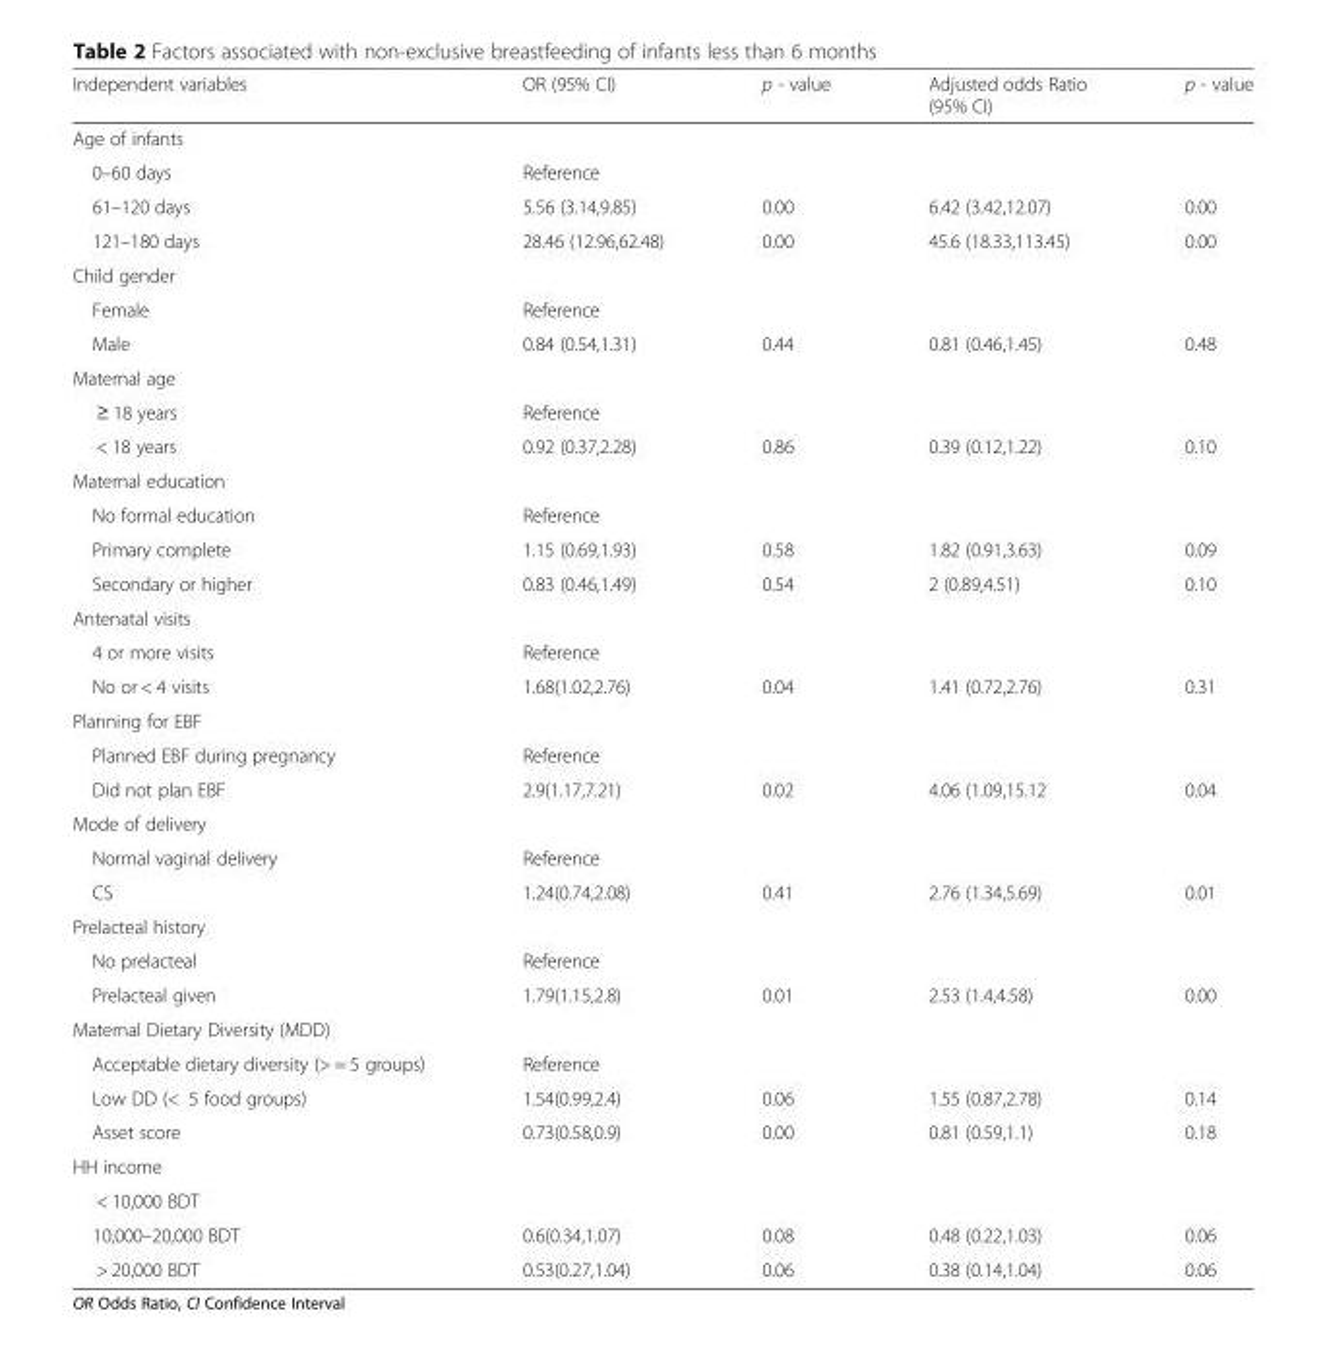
<table><thead><tr><td>Independent variables</td><td>OR (95% CI)</td><td>p - value</td><td>Adjusted odds Ratio (95% CI)</td><td>p - value</td></tr></thead><tbody><tr><td colspan="5">Age of infants</td></tr><tr><td>0–60 days</td><td>Reference</td><td></td><td></td><td></td></tr><tr><td>61–120 days</td><td>5.56 (3.14,9.85)</td><td>0.00</td><td>6.42 (3.42,12.07)</td><td>0.00</td></tr><tr><td>121–180 days</td><td>28.46 (12.96,62.48)</td><td>0.00</td><td>45.6 (18.33,113.45)</td><td>0.00</td></tr><tr><td colspan="5">Child gender</td></tr><tr><td>Female</td><td>Reference</td><td></td><td></td><td></td></tr><tr><td>Male</td><td>0.84 (0.54,1.31)</td><td>0.44</td><td>0.81 (0.46,1.45)</td><td>0.48</td></tr><tr><td colspan="5">Maternal age</td></tr><tr><td>≥ 18 years</td><td>Reference</td><td></td><td></td><td></td></tr><tr><td>&lt; 18 years</td><td>0.92 (0.37,2.28)</td><td>0.86</td><td>0.39 (0.12,1.22)</td><td>0.10</td></tr><tr><td colspan="5">Maternal education</td></tr><tr><td>No formal education</td><td>Reference</td><td></td><td></td><td></td></tr><tr><td>Primary complete</td><td>1.15 (0.69,1.93)</td><td>0.58</td><td>1.82 (0.91,3.63)</td><td>0.09</td></tr><tr><td>Secondary or higher</td><td>0.83 (0.46,1.49)</td><td>0.54</td><td>2 (0.89,4.51)</td><td>0.10</td></tr><tr><td colspan="5">Antenatal visits</td></tr><tr><td>4 or more visits</td><td>Reference</td><td></td><td></td><td></td></tr><tr><td>No or &lt; 4 visits</td><td>1.68(1.02,2.76)</td><td>0.04</td><td>1.41 (0.72,2.76)</td><td>0.31</td></tr><tr><td colspan="5">Planning for EBF</td></tr><tr><td>Planned EBF during pregnancy</td><td>Reference</td><td></td><td></td><td></td></tr><tr><td>Did not plan EBF</td><td>2.9(1.17,7.21)</td><td>0.02</td><td>4.06 (1.09,15.12</td><td>0.04</td></tr><tr><td colspan="5">Mode of delivery</td></tr><tr><td>Normal vaginal delivery</td><td>Reference</td><td></td><td></td><td></td></tr><tr><td>CS</td><td>1.24(0.74,2.08)</td><td>0.41</td><td>2.76 (1.34,5.69)</td><td>0.01</td></tr><tr><td colspan="5">Prelacteal history</td></tr><tr><td>No prelacteal</td><td>Reference</td><td></td><td></td><td></td></tr><tr><td>Prelacteal given</td><td>1.79(1.15,2.8)</td><td>0.01</td><td>2.53 (1.4,4.58)</td><td>0.00</td></tr><tr><td colspan="5">Maternal Dietary Diversity (MDD)</td></tr><tr><td>Acceptable dietary diversity (&gt; = 5 groups)</td><td>Reference</td><td></td><td></td><td></td></tr><tr><td>Low DD (&lt; 5 food groups)</td><td>1.54(0.99,2.4)</td><td>0.06</td><td>1.55 (0.87,2.78)</td><td>0.14</td></tr><tr><td>Asset score</td><td>0.73(0.58,0.9)</td><td>0.00</td><td>0.81 (0.59,1.1)</td><td>0.18</td></tr><tr><td colspan="5">HH income</td></tr><tr><td colspan="5">&lt; 10,000 BDT</td></tr><tr><td>10,000–20,000 BDT</td><td>0.6(0.34,1.07)</td><td>0.08</td><td>0.48 (0.22,1.03)</td><td>0.06</td></tr><tr><td>&gt; 20,000 BDT</td><td>0.53(0.27,1.04)</td><td>0.06</td><td>0.38 (0.14,1.04)</td><td>0.06</td></tr></tbody></table>